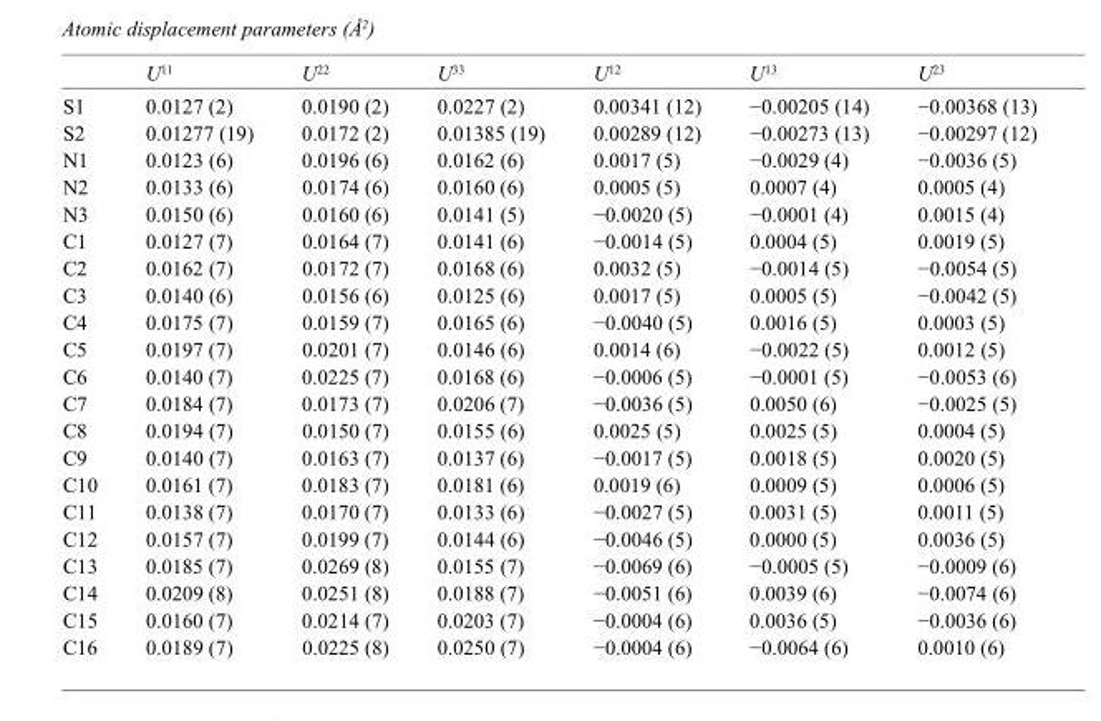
<table><thead><tr><td></td><td>U<sup>11</sup></td><td>U<sup>22</sup></td><td>U<sup>33</sup></td><td>U<sup>12</sup></td><td>U<sup>13</sup></td><td>U<sup>23</sup></td></tr></thead><tbody><tr><td>S1</td><td>0.0127 (2)</td><td>0.0190 (2)</td><td>0.0227 (2)</td><td>0.00341 (12)</td><td>−0.00205 (14)</td><td>−0.00368 (13)</td></tr><tr><td>S2</td><td>0.01277 (19)</td><td>0.0172 (2)</td><td>0.01385 (19)</td><td>0.00289 (12)</td><td>−0.00273 (13)</td><td>−0.00297 (12)</td></tr><tr><td>N1</td><td>0.0123 (6)</td><td>0.0196 (6)</td><td>0.0162 (6)</td><td>0.0017 (5)</td><td>−0.0029 (4)</td><td>−0.0036 (5)</td></tr><tr><td>N2</td><td>0.0133 (6)</td><td>0.0174 (6)</td><td>0.0160 (6)</td><td>0.0005 (5)</td><td>0.0007 (4)</td><td>0.0005 (4)</td></tr><tr><td>N3</td><td>0.0150 (6)</td><td>0.0160 (6)</td><td>0.0141 (5)</td><td>−0.0020 (5)</td><td>−0.0001 (4)</td><td>0.0015 (4)</td></tr><tr><td>C1</td><td>0.0127 (7)</td><td>0.0164 (7)</td><td>0.0141 (6)</td><td>−0.0014 (5)</td><td>0.0004 (5)</td><td>0.0019 (5)</td></tr><tr><td>C2</td><td>0.0162 (7)</td><td>0.0172 (7)</td><td>0.0168 (6)</td><td>0.0032 (5)</td><td>−0.0014 (5)</td><td>−0.0054 (5)</td></tr><tr><td>C3</td><td>0.0140 (6)</td><td>0.0156 (6)</td><td>0.0125 (6)</td><td>0.0017 (5)</td><td>0.0005 (5)</td><td>−0.0042 (5)</td></tr><tr><td>C4</td><td>0.0175 (7)</td><td>0.0159 (7)</td><td>0.0165 (6)</td><td>−0.0040 (5)</td><td>0.0016 (5)</td><td>0.0003 (5)</td></tr><tr><td>C5</td><td>0.0197 (7)</td><td>0.0201 (7)</td><td>0.0146 (6)</td><td>0.0014 (6)</td><td>−0.0022 (5)</td><td>0.0012 (5)</td></tr><tr><td>C6</td><td>0.0140 (7)</td><td>0.0225 (7)</td><td>0.0168 (6)</td><td>−0.0006 (5)</td><td>−0.0001 (5)</td><td>−0.0053 (6)</td></tr><tr><td>C7</td><td>0.0184 (7)</td><td>0.0173 (7)</td><td>0.0206 (7)</td><td>−0.0036 (5)</td><td>0.0050 (6)</td><td>−0.0025 (5)</td></tr><tr><td>C8</td><td>0.0194 (7)</td><td>0.0150 (7)</td><td>0.0155 (6)</td><td>0.0025 (5)</td><td>0.0025 (5)</td><td>0.0004 (5)</td></tr><tr><td>C9</td><td>0.0140 (7)</td><td>0.0163 (7)</td><td>0.0137 (6)</td><td>−0.0017 (5)</td><td>0.0018 (5)</td><td>0.0020 (5)</td></tr><tr><td>C10</td><td>0.0161 (7)</td><td>0.0183 (7)</td><td>0.0181 (6)</td><td>0.0019 (6)</td><td>0.0009 (5)</td><td>0.0006 (5)</td></tr><tr><td>C11</td><td>0.0138 (7)</td><td>0.0170 (7)</td><td>0.0133 (6)</td><td>−0.0027 (5)</td><td>0.0031 (5)</td><td>0.0011 (5)</td></tr><tr><td>C12</td><td>0.0157 (7)</td><td>0.0199 (7)</td><td>0.0144 (6)</td><td>−0.0046 (5)</td><td>0.0000 (5)</td><td>0.0036 (5)</td></tr><tr><td>C13</td><td>0.0185 (7)</td><td>0.0269 (8)</td><td>0.0155 (7)</td><td>−0.0069 (6)</td><td>−0.0005 (5)</td><td>−0.0009 (6)</td></tr><tr><td>C14</td><td>0.0209 (8)</td><td>0.0251 (8)</td><td>0.0188 (7)</td><td>−0.0051 (6)</td><td>0.0039 (6)</td><td>−0.0074 (6)</td></tr><tr><td>C15</td><td>0.0160 (7)</td><td>0.0214 (7)</td><td>0.0203 (7)</td><td>−0.0004 (6)</td><td>0.0036 (5)</td><td>−0.0036 (6)</td></tr><tr><td>C16</td><td>0.0189 (7)</td><td>0.0225 (8)</td><td>0.0250 (7)</td><td>−0.0004 (6)</td><td>−0.0064 (6)</td><td>0.0010 (6)</td></tr></tbody></table>